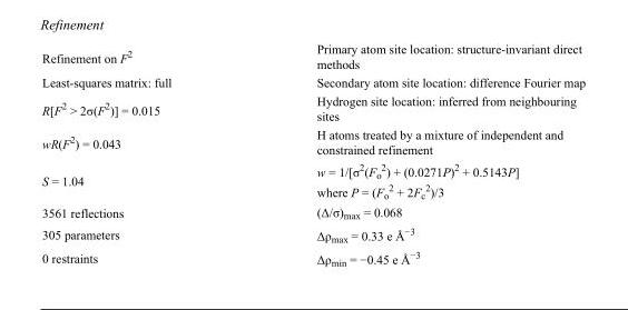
<table><tbody><tr><td>Refinement on F<sup>2</sup></td><td>Primary atom site location: structure-invariant direct methods</td></tr><tr><td>Least-squares matrix: full</td><td>Secondary atom site location: difference Fourier map</td></tr><tr><td>R[F<sup>2</sup> &gt; 2σ(F<sup>2</sup>)] = 0.015</td><td>Hydrogen site location: inferred from neighbouring sites</td></tr><tr><td>wR(F<sup>2</sup>) = 0.043</td><td>H atoms treated by a mixture of independent and constrained refinement</td></tr><tr><td>S = 1.04</td><td>w = 1/[σ<sup>2</sup>(F<sub>o</sub> <sup>2</sup>) + (0.0271P)<sup>2</sup> + 0.5143P] where P = (F<sub>o</sub> <sup>2</sup> + 2F<sub>c</sub> <sup>2</sup>)/3</td></tr><tr><td>3561 reflections</td><td>(Δ/σ)<sub>max</sub> = 0.068</td></tr><tr><td>305 parameters</td><td>Δρ<sub>max</sub> = 0.33 e Å<sup>−3</sup></td></tr><tr><td>0 restraints</td><td>Δρ<sub>min</sub> = −0.45 e Å<sup>−3</sup></td></tr></tbody></table>